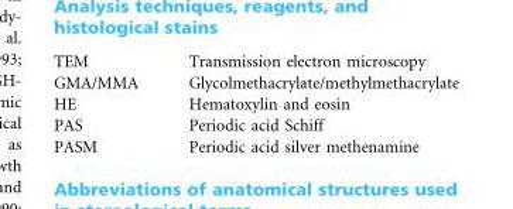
<table><tbody><tr><td>TEM</td><td>Transmission electron microscopy</td></tr><tr><td>GMA/MMA</td><td>Glycolmethacrylate/methylmethacrylate</td></tr><tr><td>HE</td><td>Hematoxylin and eosin</td></tr><tr><td>PAS</td><td>Periodic acid Schiff</td></tr><tr><td>PASM</td><td>Periodic acid silver methenamine</td></tr></tbody></table>